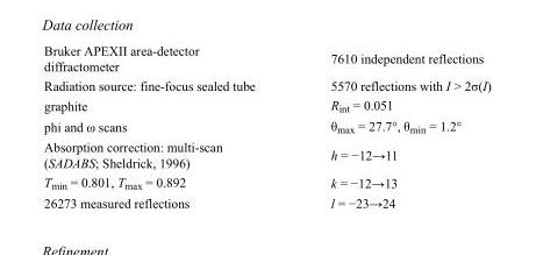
<table><tbody><tr><td>Bruker APEXII area-detector diffractometer</td><td>7610 independent reflections</td></tr><tr><td>Radiation source: fine-focus sealed tube</td><td>5570 reflections with I &gt; 2σ(I)</td></tr><tr><td>graphite</td><td>R<sub>int</sub> = 0.051</td></tr><tr><td>phi and ω scans</td><td>θ<sub>max</sub> = 27.7°, θ<sub>min</sub> = 1.2°</td></tr><tr><td>Absorption correction: multi-scan (SADABS; Sheldrick, 1996)</td><td>h = −12→11</td></tr><tr><td>T<sub>min</sub> = 0.801, T<sub>max</sub> = 0.892</td><td>k = −12→13</td></tr><tr><td>26273 measured reflections</td><td>l = −23→24</td></tr></tbody></table>